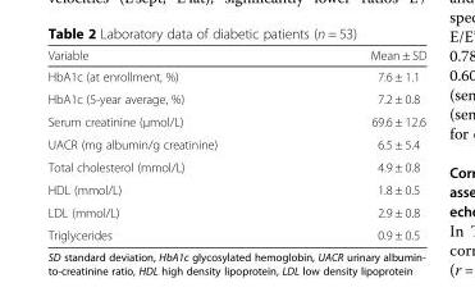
<table><thead><tr><td>Variable</td><td>Mean ± SD</td></tr></thead><tbody><tr><td>HbA1c (at enrollment, %)</td><td>7.6 ± 1.1</td></tr><tr><td>HbA1c (5-year average, %)</td><td>7.2 ± 0.8</td></tr><tr><td>Serum creatinine (μmol/L)</td><td>69.6 ± 12.6</td></tr><tr><td>UACR (mg albumin/g creatinine)</td><td>6.5 ± 5.4</td></tr><tr><td>Total cholesterol (mmol/L)</td><td>4.9 ± 0.8</td></tr><tr><td>HDL (mmol/L)</td><td>1.8 ± 0.5</td></tr><tr><td>LDL (mmol/L)</td><td>2.9 ± 0.8</td></tr><tr><td>Triglycerides</td><td>0.9 ± 0.5</td></tr></tbody></table>